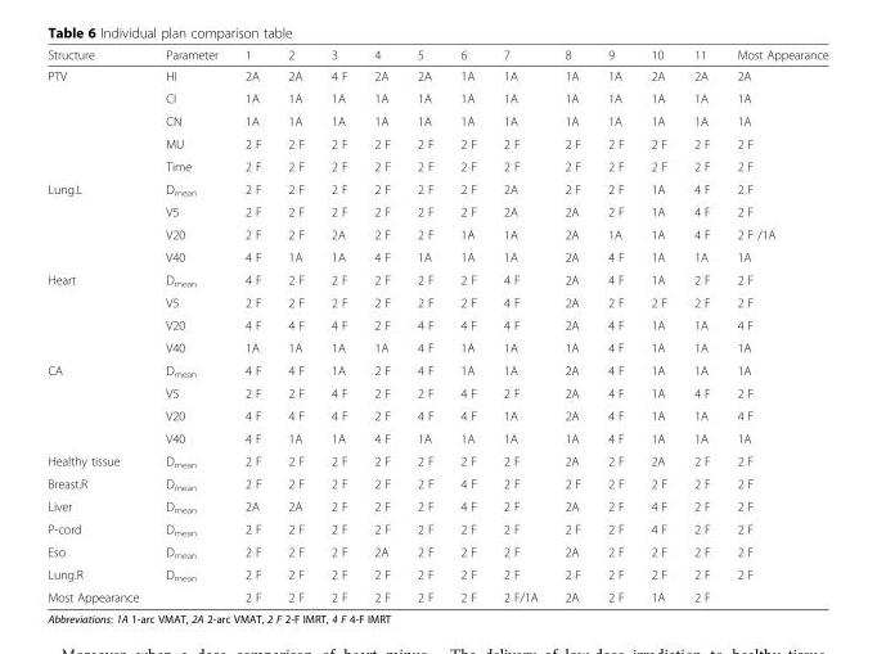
<table><thead><tr><td>Structure</td><td>Parameter</td><td>1</td><td>2</td><td>3</td><td>4</td><td>5</td><td>6</td><td>7</td><td>8</td><td>9</td><td>10</td><td>11</td><td>Most Appearance</td></tr></thead><tbody><tr><td rowspan="5">PTV</td><td>HI</td><td>2A</td><td>2A</td><td>4 F</td><td>2A</td><td>2A</td><td>1A</td><td>1A</td><td>1A</td><td>1A</td><td>2A</td><td>2A</td><td>2A</td></tr><tr><td>CI</td><td>1A</td><td>1A</td><td>1A</td><td>1A</td><td>1A</td><td>1A</td><td>1A</td><td>1A</td><td>1A</td><td>1A</td><td>1A</td><td>1A</td></tr><tr><td>CN</td><td>1A</td><td>1A</td><td>1A</td><td>1A</td><td>1A</td><td>1A</td><td>1A</td><td>1A</td><td>1A</td><td>1A</td><td>1A</td><td>1A</td></tr><tr><td>MU</td><td>2 F</td><td>2 F</td><td>2 F</td><td>2 F</td><td>2 F</td><td>2 F</td><td>2 F</td><td>2 F</td><td>2 F</td><td>2 F</td><td>2 F</td><td>2 F</td></tr><tr><td>Time</td><td>2 F</td><td>2 F</td><td>2 F</td><td>2 F</td><td>2 F</td><td>2 F</td><td>2 F</td><td>2 F</td><td>2 F</td><td>2 F</td><td>2 F</td><td>2 F</td></tr><tr><td rowspan="4">Lung.L</td><td>D<sub>mean</sub></td><td>2 F</td><td>2 F</td><td>2 F</td><td>2 F</td><td>2 F</td><td>2 F</td><td>2A</td><td>2 F</td><td>2 F</td><td>1A</td><td>4 F</td><td>2 F</td></tr><tr><td>V5</td><td>2 F</td><td>2 F</td><td>2 F</td><td>2 F</td><td>2 F</td><td>2 F</td><td>2A</td><td>2A</td><td>2 F</td><td>1A</td><td>4 F</td><td>2 F</td></tr><tr><td>V20</td><td>2 F</td><td>2 F</td><td>2A</td><td>2 F</td><td>2 F</td><td>1A</td><td>1A</td><td>2A</td><td>1A</td><td>1A</td><td>4 F</td><td>2 F /1A</td></tr><tr><td>V40</td><td>4 F</td><td>1A</td><td>1A</td><td>4 F</td><td>1A</td><td>1A</td><td>1A</td><td>2A</td><td>4 F</td><td>1A</td><td>1A</td><td>1A</td></tr><tr><td rowspan="4">Heart</td><td>D<sub>mean</sub></td><td>4 F</td><td>2 F</td><td>2 F</td><td>2 F</td><td>2 F</td><td>2 F</td><td>4 F</td><td>2A</td><td>4 F</td><td>1A</td><td>2 F</td><td>2 F</td></tr><tr><td>V5</td><td>2 F</td><td>2 F</td><td>2 F</td><td>2 F</td><td>2 F</td><td>2 F</td><td>4 F</td><td>2A</td><td>2 F</td><td>2 F</td><td>2 F</td><td>2 F</td></tr><tr><td>V20</td><td>4 F</td><td>4 F</td><td>4 F</td><td>2 F</td><td>4 F</td><td>4 F</td><td>4 F</td><td>2A</td><td>4 F</td><td>1A</td><td>1A</td><td>4 F</td></tr><tr><td>V40</td><td>1A</td><td>1A</td><td>1A</td><td>1A</td><td>4 F</td><td>1A</td><td>1A</td><td>1A</td><td>4 F</td><td>1A</td><td>1A</td><td>1A</td></tr><tr><td rowspan="4">CA</td><td>D<sub>mean</sub></td><td>4 F</td><td>4 F</td><td>1A</td><td>2 F</td><td>4 F</td><td>1A</td><td>1A</td><td>2A</td><td>4 F</td><td>1A</td><td>1A</td><td>1A</td></tr><tr><td>V5</td><td>2 F</td><td>2 F</td><td>4 F</td><td>2 F</td><td>2 F</td><td>4 F</td><td>2 F</td><td>2A</td><td>4 F</td><td>1A</td><td>4 F</td><td>2 F</td></tr><tr><td>V20</td><td>4 F</td><td>4 F</td><td>4 F</td><td>2 F</td><td>4 F</td><td>4 F</td><td>1A</td><td>2A</td><td>4 F</td><td>1A</td><td>1A</td><td>4 F</td></tr><tr><td>V40</td><td>4 F</td><td>1A</td><td>1A</td><td>4 F</td><td>1A</td><td>1A</td><td>1A</td><td>1A</td><td>4 F</td><td>1A</td><td>1A</td><td>1A</td></tr><tr><td>Healthy tissue</td><td>D<sub>mean</sub></td><td>2 F</td><td>2 F</td><td>2 F</td><td>2 F</td><td>2 F</td><td>2 F</td><td>2 F</td><td>2A</td><td>2 F</td><td>2A</td><td>2 F</td><td>2 F</td></tr><tr><td>Breast.R</td><td>D<sub>mean</sub></td><td>2 F</td><td>2 F</td><td>2 F</td><td>2 F</td><td>2 F</td><td>4 F</td><td>2 F</td><td>2 F</td><td>2 F</td><td>2 F</td><td>2 F</td><td>2 F</td></tr><tr><td>Liver</td><td>D<sub>mean</sub></td><td>2A</td><td>2A</td><td>2 F</td><td>2 F</td><td>2 F</td><td>4 F</td><td>2 F</td><td>2A</td><td>2 F</td><td>4 F</td><td>2 F</td><td>2 F</td></tr><tr><td>P-cord</td><td>D<sub>mean</sub></td><td>2 F</td><td>2 F</td><td>2 F</td><td>2 F</td><td>2 F</td><td>2 F</td><td>2 F</td><td>2 F</td><td>2 F</td><td>4 F</td><td>2 F</td><td>2 F</td></tr><tr><td>Eso</td><td>D<sub>mean</sub></td><td>2 F</td><td>2 F</td><td>2 F</td><td>2A</td><td>2 F</td><td>2 F</td><td>2 F</td><td>2A</td><td>2 F</td><td>2 F</td><td>2 F</td><td>2 F</td></tr><tr><td>Lung.R</td><td>D<sub>mean</sub></td><td>2 F</td><td>2 F</td><td>2 F</td><td>2 F</td><td>2 F</td><td>2 F</td><td>2 F</td><td>2 F</td><td>2 F</td><td>2 F</td><td>2 F</td><td>2 F</td></tr><tr><td>Most Appearance</td><td></td><td>2 F</td><td>2 F</td><td>2 F</td><td>2 F</td><td>2 F</td><td>2 F</td><td>2 F/1A</td><td>2A</td><td>2 F</td><td>1A</td><td>2 F</td><td></td></tr></tbody></table>